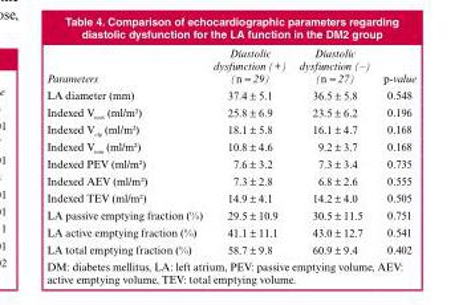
<table><thead><tr><td>Parameters</td><td>Diastolic dysfunction (+) (n = 29)</td><td>Diastolic dysfunction (–) (n = 27)</td><td>p-value</td></tr></thead><tbody><tr><td>LA diameter (mm)</td><td>37.4 ± 5.1</td><td>36.5 ± 5.8</td><td>0.548</td></tr><tr><td>Indexed Vmax (ml/m²)</td><td>25.8 ± 6.9</td><td>23.5 ± 6.2</td><td>0.196</td></tr><tr><td>Indexed Volp (ml/m²)</td><td>18.1 ± 5.8</td><td>16.1 ± 4.7</td><td>0.168</td></tr><tr><td>Indexed Vmin (ml/m²)</td><td>10.8 ± 4.6</td><td>9.2 ± 3.7</td><td>0.168</td></tr><tr><td>Indexed PEV (ml/m²)</td><td>7.6 ± 3.2</td><td>7.3 ± 3.4</td><td>0.735</td></tr><tr><td>Indexed AEV (ml/m²)</td><td>7.3 ± 2.8</td><td>6.8 ± 2.6</td><td>0.555</td></tr><tr><td>Indexed TEV (ml/m²)</td><td>14.9 ± 4.1</td><td>14.2 ± 4.0</td><td>0.505</td></tr><tr><td>LA passive emptying fraction (%)</td><td>29.5 ± 10.9</td><td>30.5 ± 11.5</td><td>0.751</td></tr><tr><td>LA active emptying fraction (%)</td><td>41.1 ± 11.1</td><td>43.0 ± 12.7</td><td>0.541</td></tr><tr><td>LA total emptying fraction (%)</td><td>58.7 ± 9.8</td><td>60.9 ± 9.4</td><td>0.402</td></tr></tbody></table>